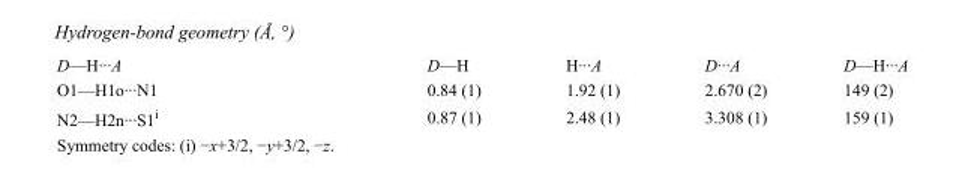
<table><tbody><tr><td>D—H···A</td><td>D—H</td><td>H···A</td><td>D···A</td><td>D—H···A</td></tr><tr><td>O1—H1o···N1</td><td>0.84 (1)</td><td>1.92 (1)</td><td>2.670 (2)</td><td>149 (2)</td></tr><tr><td>N2—H2n···S1<sup>i</sup></td><td>0.87 (1)</td><td>2.48 (1)</td><td>3.308 (1)</td><td>159 (1)</td></tr></tbody></table>